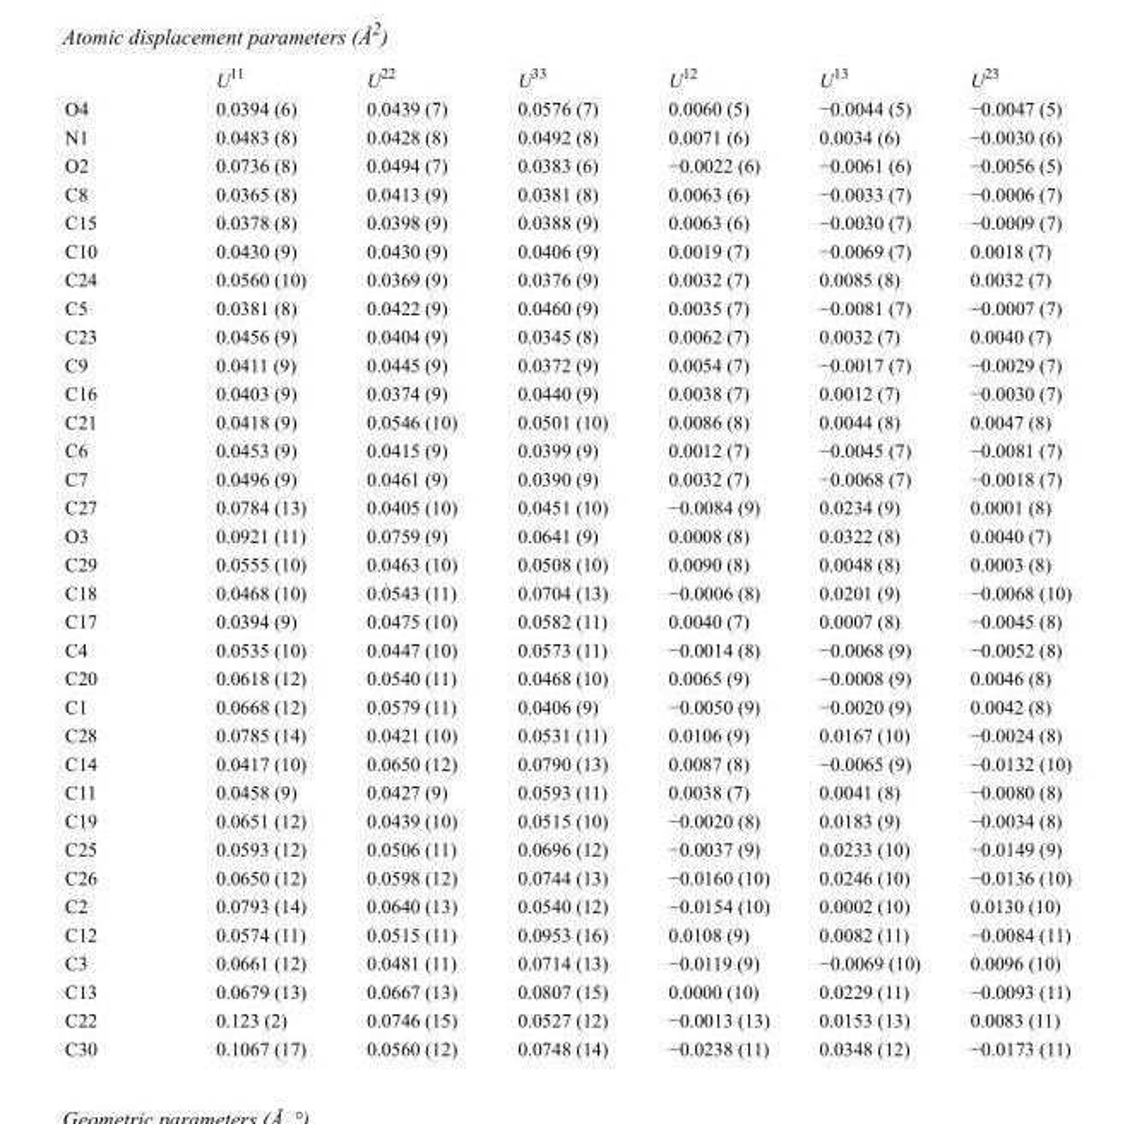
<table><thead><tr><td></td><td>U<sup>11</sup></td><td>U<sup>22</sup></td><td>U<sup>33</sup></td><td>U<sup>12</sup></td><td>U<sup>13</sup></td><td>U<sup>23</sup></td></tr></thead><tbody><tr><td>O4</td><td>0.0394 (6)</td><td>0.0439 (7)</td><td>0.0576 (7)</td><td>0.0060 (5)</td><td>−0.0044 (5)</td><td>−0.0047 (5)</td></tr><tr><td>N1</td><td>0.0483 (8)</td><td>0.0428 (8)</td><td>0.0492 (8)</td><td>0.0071 (6)</td><td>0.0034 (6)</td><td>−0.0030 (6)</td></tr><tr><td>O2</td><td>0.0736 (8)</td><td>0.0494 (7)</td><td>0.0383 (6)</td><td>−0.0022 (6)</td><td>−0.0061 (6)</td><td>−0.0056 (5)</td></tr><tr><td>C8</td><td>0.0365 (8)</td><td>0.0413 (9)</td><td>0.0381 (8)</td><td>0.0063 (6)</td><td>−0.0033 (7)</td><td>−0.0006 (7)</td></tr><tr><td>C15</td><td>0.0378 (8)</td><td>0.0398 (9)</td><td>0.0388 (9)</td><td>0.0063 (6)</td><td>−0.0030 (7)</td><td>−0.0009 (7)</td></tr><tr><td>C10</td><td>0.0430 (9)</td><td>0.0430 (9)</td><td>0.0406 (9)</td><td>0.0019 (7)</td><td>−0.0069 (7)</td><td>0.0018 (7)</td></tr><tr><td>C24</td><td>0.0560 (10)</td><td>0.0369 (9)</td><td>0.0376 (9)</td><td>0.0032 (7)</td><td>0.0085 (8)</td><td>0.0032 (7)</td></tr><tr><td>C5</td><td>0.0381 (8)</td><td>0.0422 (9)</td><td>0.0460 (9)</td><td>0.0035 (7)</td><td>−0.0081 (7)</td><td>−0.0007 (7)</td></tr><tr><td>C23</td><td>0.0456 (9)</td><td>0.0404 (9)</td><td>0.0345 (8)</td><td>0.0062 (7)</td><td>0.0032 (7)</td><td>0.0040 (7)</td></tr><tr><td>C9</td><td>0.0411 (9)</td><td>0.0445 (9)</td><td>0.0372 (9)</td><td>0.0054 (7)</td><td>−0.0017 (7)</td><td>−0.0029 (7)</td></tr><tr><td>C16</td><td>0.0403 (9)</td><td>0.0374 (9)</td><td>0.0440 (9)</td><td>0.0038 (7)</td><td>0.0012 (7)</td><td>−0.0030 (7)</td></tr><tr><td>C21</td><td>0.0418 (9)</td><td>0.0546 (10)</td><td>0.0501 (10)</td><td>0.0086 (8)</td><td>0.0044 (8)</td><td>0.0047 (8)</td></tr><tr><td>C6</td><td>0.0453 (9)</td><td>0.0415 (9)</td><td>0.0399 (9)</td><td>0.0012 (7)</td><td>−0.0045 (7)</td><td>−0.0081 (7)</td></tr><tr><td>C7</td><td>0.0496 (9)</td><td>0.0461 (9)</td><td>0.0390 (9)</td><td>0.0032 (7)</td><td>−0.0068 (7)</td><td>−0.0018 (7)</td></tr><tr><td>C27</td><td>0.0784 (13)</td><td>0.0405 (10)</td><td>0.0451 (10)</td><td>−0.0084 (9)</td><td>0.0234 (9)</td><td>0.0001 (8)</td></tr><tr><td>O3</td><td>0.0921 (11)</td><td>0.0759 (9)</td><td>0.0641 (9)</td><td>0.0008 (8)</td><td>0.0322 (8)</td><td>0.0040 (7)</td></tr><tr><td>C29</td><td>0.0555 (10)</td><td>0.0463 (10)</td><td>0.0508 (10)</td><td>0.0090 (8)</td><td>0.0048 (8)</td><td>0.0003 (8)</td></tr><tr><td>C18</td><td>0.0468 (10)</td><td>0.0543 (11)</td><td>0.0704 (13)</td><td>−0.0006 (8)</td><td>0.0201 (9)</td><td>−0.0068 (10)</td></tr><tr><td>C17</td><td>0.0394 (9)</td><td>0.0475 (10)</td><td>0.0582 (11)</td><td>0.0040 (7)</td><td>0.0007 (8)</td><td>−0.0045 (8)</td></tr><tr><td>C4</td><td>0.0535 (10)</td><td>0.0447 (10)</td><td>0.0573 (11)</td><td>−0.0014 (8)</td><td>−0.0068 (9)</td><td>−0.0052 (8)</td></tr><tr><td>C20</td><td>0.0618 (12)</td><td>0.0540 (11)</td><td>0.0468 (10)</td><td>0.0065 (9)</td><td>−0.0008 (9)</td><td>0.0046 (8)</td></tr><tr><td>C1</td><td>0.0668 (12)</td><td>0.0579 (11)</td><td>0.0406 (9)</td><td>−0.0050 (9)</td><td>−0.0020 (9)</td><td>0.0042 (8)</td></tr><tr><td>C28</td><td>0.0785 (14)</td><td>0.0421 (10)</td><td>0.0531 (11)</td><td>0.0106 (9)</td><td>0.0167 (10)</td><td>−0.0024 (8)</td></tr><tr><td>C14</td><td>0.0417 (10)</td><td>0.0650 (12)</td><td>0.0790 (13)</td><td>0.0087 (8)</td><td>−0.0065 (9)</td><td>−0.0132 (10)</td></tr><tr><td>C11</td><td>0.0458 (9)</td><td>0.0427 (9)</td><td>0.0593 (11)</td><td>0.0038 (7)</td><td>0.0041 (8)</td><td>−0.0080 (8)</td></tr><tr><td>C19</td><td>0.0651 (12)</td><td>0.0439 (10)</td><td>0.0515 (10)</td><td>−0.0020 (8)</td><td>0.0183 (9)</td><td>−0.0034 (8)</td></tr><tr><td>C25</td><td>0.0593 (12)</td><td>0.0506 (11)</td><td>0.0696 (12)</td><td>−0.0037 (9)</td><td>0.0233 (10)</td><td>−0.0149 (9)</td></tr><tr><td>C26</td><td>0.0650 (12)</td><td>0.0598 (12)</td><td>0.0744 (13)</td><td>−0.0160 (10)</td><td>0.0246 (10)</td><td>−0.0136 (10)</td></tr><tr><td>C2</td><td>0.0793 (14)</td><td>0.0640 (13)</td><td>0.0540 (12)</td><td>−0.0154 (10)</td><td>0.0002 (10)</td><td>0.0130 (10)</td></tr><tr><td>C12</td><td>0.0574 (11)</td><td>0.0515 (11)</td><td>0.0953 (16)</td><td>0.0108 (9)</td><td>0.0082 (11)</td><td>−0.0084 (11)</td></tr><tr><td>C3</td><td>0.0661 (12)</td><td>0.0481 (11)</td><td>0.0714 (13)</td><td>−0.0119 (9)</td><td>−0.0069 (10)</td><td>0.0096 (10)</td></tr><tr><td>C13</td><td>0.0679 (13)</td><td>0.0667 (13)</td><td>0.0807 (15)</td><td>0.0000 (10)</td><td>0.0229 (11)</td><td>−0.0093 (11)</td></tr><tr><td>C22</td><td>0.123 (2)</td><td>0.0746 (15)</td><td>0.0527 (12)</td><td>−0.0013 (13)</td><td>0.0153 (13)</td><td>0.0083 (11)</td></tr><tr><td>C30</td><td>0.1067 (17)</td><td>0.0560 (12)</td><td>0.0748 (14)</td><td>−0.0238 (11)</td><td>0.0348 (12)</td><td>−0.0173 (11)</td></tr></tbody></table>